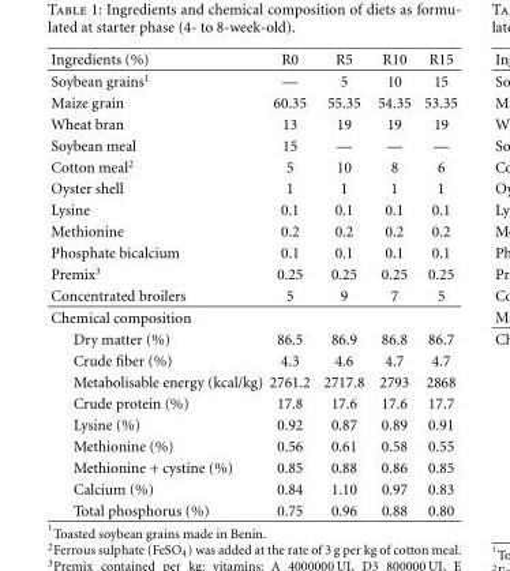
<table><thead><tr><td>Ingredients (%)</td><td>R0</td><td>R5</td><td>R10</td><td>R15</td></tr></thead><tbody><tr><td>Soybean grains<sup>1</sup></td><td>—</td><td>5</td><td>10</td><td>15</td></tr><tr><td>Maize grain</td><td>60.35</td><td>55.35</td><td>54.35</td><td>53.35</td></tr><tr><td>Wheat bran</td><td>13</td><td>19</td><td>19</td><td>19</td></tr><tr><td>Soybean meal</td><td>15</td><td>—</td><td>—</td><td>—</td></tr><tr><td>Cotton meal<sup>2</sup></td><td>5</td><td>10</td><td>8</td><td>6</td></tr><tr><td>Oyster shell</td><td>1</td><td>1</td><td>1</td><td>1</td></tr><tr><td>Lysine</td><td>0.1</td><td>0.1</td><td>0.1</td><td>0.1</td></tr><tr><td>Methionine</td><td>0.2</td><td>0.2</td><td>0.2</td><td>0.2</td></tr><tr><td>Phosphate bicalcium</td><td>0.1</td><td>0.1</td><td>0.1</td><td>0.1</td></tr><tr><td>Premix<sup>3</sup></td><td>0.25</td><td>0.25</td><td>0.25</td><td>0.25</td></tr><tr><td>Concentrated broilers</td><td>5</td><td>9</td><td>7</td><td>5</td></tr><tr><td colspan="5">Chemical composition</td></tr><tr><td>Dry matter (%)</td><td>86.5</td><td>86.9</td><td>86.8</td><td>86.7</td></tr><tr><td>Crude fiber (%)</td><td>4.3</td><td>4.6</td><td>4.7</td><td>4.7</td></tr><tr><td>Metabolisable energy (kcal/kg)</td><td>2761.2</td><td>2717.8</td><td>2793</td><td>2868</td></tr><tr><td>Crude protein (%)</td><td>17.8</td><td>17.6</td><td>17.6</td><td>17.7</td></tr><tr><td>Lysine (%)</td><td>0.92</td><td>0.87</td><td>0.89</td><td>0.91</td></tr><tr><td>Methionine (%)</td><td>0.56</td><td>0.61</td><td>0.58</td><td>0.55</td></tr><tr><td>Methionine + cystine (%)</td><td>0.85</td><td>0.88</td><td>0.86</td><td>0.85</td></tr><tr><td>Calcium (%)</td><td>0.84</td><td>1.10</td><td>0.97</td><td>0.83</td></tr><tr><td>Total phosphorus (%)</td><td>0.75</td><td>0.96</td><td>0.88</td><td>0.80</td></tr></tbody></table>